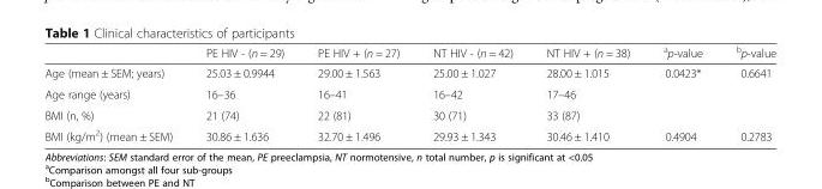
<table><thead><tr><td></td><td>PE HIV - (n = 29)</td><td>PE HIV + (n = 27)</td><td>NT HIV - (n = 42)</td><td>NT HIV + (n = 38)</td><td><sup>a</sup>p-value</td><td><sup>b</sup>p-value</td></tr></thead><tbody><tr><td>Age (mean ± SEM; years)</td><td>25.03 ± 0.9944</td><td>29.00 ± 1.563</td><td>25.00 ± 1.027</td><td>28.00 ± 1.015</td><td>0.0423*</td><td>0.6641</td></tr><tr><td>Age range (years)</td><td>16–36</td><td>16–41</td><td>16–42</td><td>17–46</td><td></td><td></td></tr><tr><td>BMI (n, %)</td><td>21 (74)</td><td>22 (81)</td><td>30 (71)</td><td>33 (87)</td><td></td><td></td></tr><tr><td>BMI (kg/m<sup>2</sup>) (mean ± SEM)</td><td>30.86 ± 1.636</td><td>32.70 ± 1.496</td><td>29.93 ± 1.343</td><td>30.46 ± 1.410</td><td>0.4904</td><td>0.2783</td></tr></tbody></table>